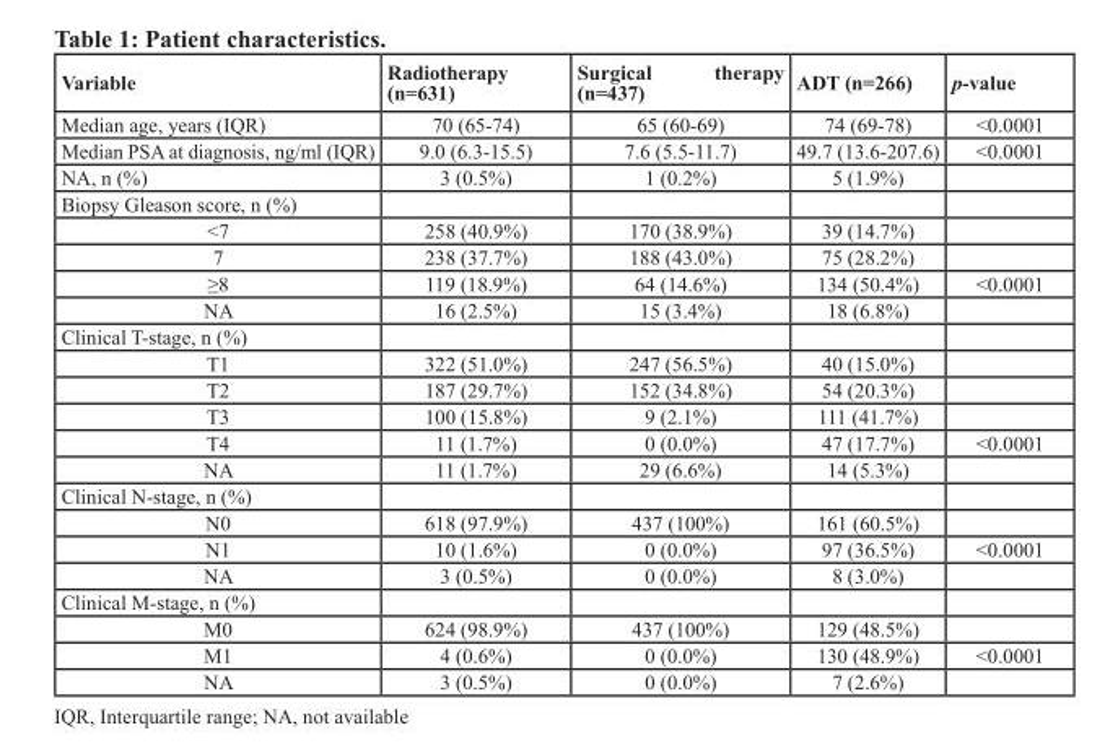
<table><thead><tr><td>Variable</td><td>Radiotherapy (n=631)</td><td>Surgical therapy (n=437)</td><td>ADT (n=266)</td><td>p-value</td></tr></thead><tbody><tr><td>Median age, years (IQR)</td><td>70 (65-74)</td><td>65 (60-69)</td><td>74 (69-78)</td><td>&lt;0.0001</td></tr><tr><td>Median PSA at diagnosis, ng/ml (IQR)</td><td>9.0 (6.3-15.5)</td><td>7.6 (5.5-11.7)</td><td>49.7 (13.6-207.6)</td><td>&lt;0.0001</td></tr><tr><td>NA, n (%)</td><td>3 (0.5%)</td><td>1 (0.2%)</td><td>5 (1.9%)</td><td></td></tr><tr><td colspan="5">Biopsy Gleason score, n (%)</td></tr><tr><td>&lt;7</td><td>258 (40.9%)</td><td>170 (38.9%)</td><td>39 (14.7%)</td><td></td></tr><tr><td>7</td><td>238 (37.7%)</td><td>188 (43.0%)</td><td>75 (28.2%)</td><td></td></tr><tr><td>≥8</td><td>119 (18.9%)</td><td>64 (14.6%)</td><td>134 (50.4%)</td><td>&lt;0.0001</td></tr><tr><td>NA</td><td>16 (2.5%)</td><td>15 (3.4%)</td><td>18 (6.8%)</td><td></td></tr><tr><td colspan="5">Clinical T-stage, n (%)</td></tr><tr><td>T1</td><td>322 (51.0%)</td><td>247 (56.5%)</td><td>40 (15.0%)</td><td></td></tr><tr><td>T2</td><td>187 (29.7%)</td><td>152 (34.8%)</td><td>54 (20.3%)</td><td></td></tr><tr><td>T3</td><td>100 (15.8%)</td><td>9 (2.1%)</td><td>111 (41.7%)</td><td></td></tr><tr><td>T4</td><td>11 (1.7%)</td><td>0 (0.0%)</td><td>47 (17.7%)</td><td>&lt;0.0001</td></tr><tr><td>NA</td><td>11 (1.7%)</td><td>29 (6.6%)</td><td>14 (5.3%)</td><td></td></tr><tr><td colspan="5">Clinical N-stage, n (%)</td></tr><tr><td>N0</td><td>618 (97.9%)</td><td>437 (100%)</td><td>161 (60.5%)</td><td></td></tr><tr><td>N1</td><td>10 (1.6%)</td><td>0 (0.0%)</td><td>97 (36.5%)</td><td>&lt;0.0001</td></tr><tr><td>NA</td><td>3 (0.5%)</td><td>0 (0.0%)</td><td>8 (3.0%)</td><td></td></tr><tr><td colspan="5">Clinical M-stage, n (%)</td></tr><tr><td>M0</td><td>624 (98.9%)</td><td>437 (100%)</td><td>129 (48.5%)</td><td></td></tr><tr><td>M1</td><td>4 (0.6%)</td><td>0 (0.0%)</td><td>130 (48.9%)</td><td>&lt;0.0001</td></tr><tr><td>NA</td><td>3 (0.5%)</td><td>0 (0.0%)</td><td>7 (2.6%)</td><td></td></tr></tbody></table>